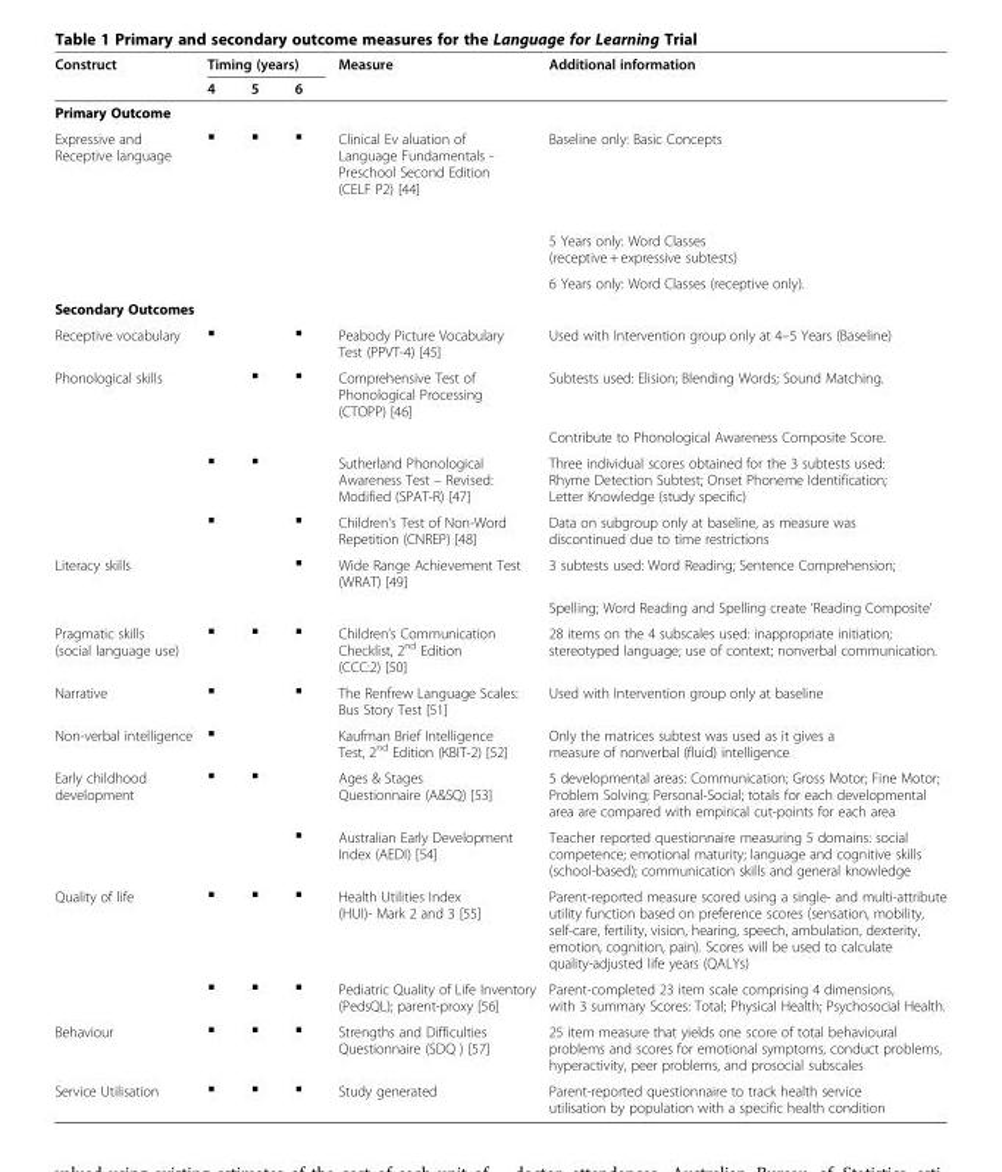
<table><thead><tr><td rowspan="2">Construct</td><td colspan="3">Timing (years)</td><td rowspan="2">Measure</td><td rowspan="2">Additional information</td></tr><tr><td>4</td><td>5</td><td>6</td></tr></thead><tbody><tr><td colspan="6">Primary Outcome</td></tr><tr><td rowspan="3">Expressive and Receptive language</td><td>▪</td><td>▪</td><td>▪</td><td>Clinical Ev aluation of Language Fundamentals - Preschool Second Edition (CELF P2) [44]</td><td>Baseline only: Basic Concepts</td></tr><tr><td></td><td></td><td></td><td></td><td>5 Years only: Word Classes (receptive + expressive subtests)</td></tr><tr><td></td><td></td><td></td><td></td><td>6 Years only: Word Classes (receptive only).</td></tr><tr><td colspan="6">Secondary Outcomes</td></tr><tr><td>Receptive vocabulary</td><td>▪</td><td></td><td>▪</td><td>Peabody Picture Vocabulary Test (PPVT-4) [45]</td><td>Used with Intervention group only at 4–5 Years (Baseline)</td></tr><tr><td rowspan="4">Phonological skills</td><td></td><td>▪</td><td>▪</td><td>Comprehensive Test of Phonological Processing (CTOPP) [46]</td><td>Subtests used: Elision; Blending Words; Sound Matching.</td></tr><tr><td></td><td></td><td></td><td></td><td>Contribute to Phonological Awareness Composite Score.</td></tr><tr><td>▪</td><td>▪</td><td></td><td>Sutherland Phonological Awareness Test – Revised: Modified (SPAT-R) [47]</td><td>Three individual scores obtained for the 3 subtests used: Rhyme Detection Subtest; Onset Phoneme Identification; Letter Knowledge (study specific)</td></tr><tr><td>▪</td><td></td><td>▪</td><td>Children&#x27;s Test of Non-Word Repetition (CNREP) [48]</td><td>Data on subgroup only at baseline, as measure was discontinued due to time restrictions</td></tr><tr><td rowspan="2">Literacy skills</td><td></td><td></td><td>▪</td><td>Wide Range Achievement Test (WRAT) [49]</td><td>3 subtests used: Word Reading; Sentence Comprehension;</td></tr><tr><td></td><td></td><td></td><td></td><td>Spelling; Word Reading and Spelling create ‘Reading Composite’</td></tr><tr><td>Pragmatic skills (social language use)</td><td>▪</td><td>▪</td><td>▪</td><td>Children’s Communication Checklist, 2<sup>nd</sup> Edition (CCC:2) [50]</td><td>28 items on the 4 subscales used: inappropriate initiation; stereotyped language; use of context; nonverbal communication.</td></tr><tr><td>Narrative</td><td>▪</td><td></td><td>▪</td><td>The Renfrew Language Scales: Bus Story Test [51]</td><td>Used with Intervention group only at baseline</td></tr><tr><td>Non-verbal intelligence</td><td>▪</td><td></td><td></td><td>Kaufman Brief Intelligence Test, 2<sup>nd</sup> Edition (KBIT-2) [52]</td><td>Only the matrices subtest was used as it gives a measure of nonverbal (fluid) intelligence</td></tr><tr><td rowspan="2">Early childhood development</td><td>▪</td><td>▪</td><td></td><td>Ages &amp; Stages Questionnaire (A&amp;SQ) [53]</td><td>5 developmental areas: Communication; Gross Motor; Fine Motor; Problem Solving; Personal-Social; totals for each developmental area are compared with empirical cut-points for each area</td></tr><tr><td></td><td></td><td>▪</td><td>Australian Early Development Index (AEDI) [54]</td><td>Teacher reported questionnaire measuring 5 domains: social competence; emotional maturity; language and cognitive skills (school-based); communication skills and general knowledge</td></tr><tr><td rowspan="2">Quality of life</td><td>▪</td><td>▪</td><td>▪</td><td>Health Utilities Index (HUI)- Mark 2 and 3 [55]</td><td>Parent-reported measure scored using a single- and multi-attribute utility function based on preference scores (sensation, mobility, self-care, fertility, vision, hearing, speech, ambulation, dexterity, emotion, cognition, pain). Scores will be used to calculate quality-adjusted life years (QALYs)</td></tr><tr><td>▪</td><td>▪</td><td>▪</td><td>Pediatric Quality of Life Inventory (PedsQL); parent-proxy [56]</td><td>Parent-completed 23 item scale comprising 4 dimensions, with 3 summary Scores: Total; Physical Health; Psychosocial Health.</td></tr><tr><td>Behaviour</td><td>▪</td><td>▪</td><td>▪</td><td>Strengths and Difficulties Questionnaire (SDQ ) [57]</td><td>25 item measure that yields one score of total behavioural problems and scores for emotional symptoms, conduct problems, hyperactivity, peer problems, and prosocial subscales</td></tr><tr><td>Service Utilisation</td><td>▪</td><td>▪</td><td>▪</td><td>Study generated</td><td>Parent-reported questionnaire to track health service utilisation by population with a specific health condition</td></tr></tbody></table>